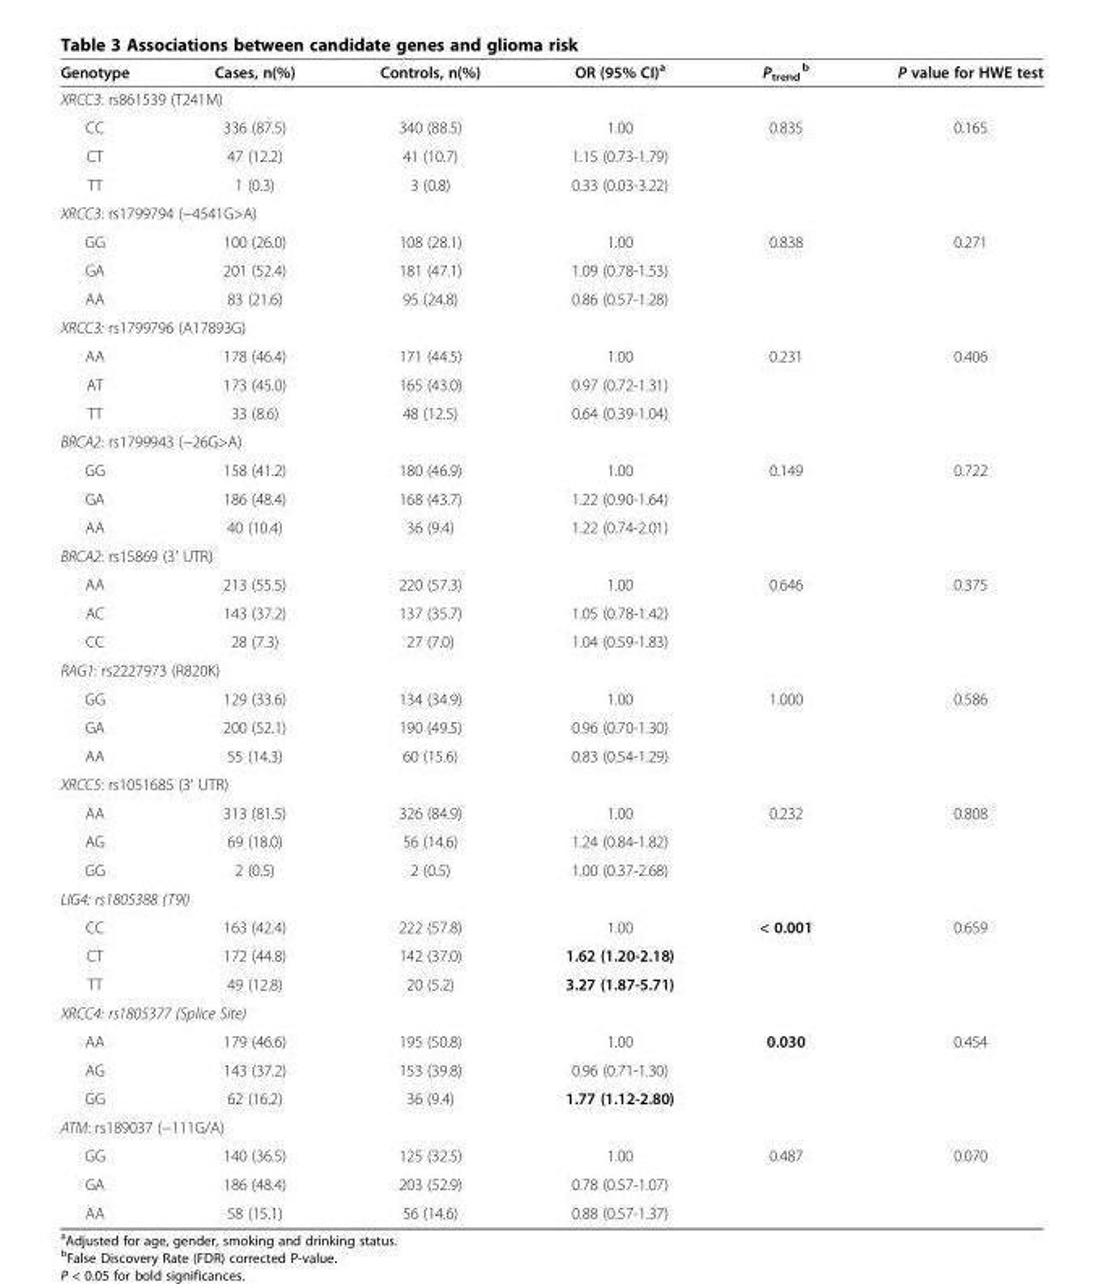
<table><thead><tr><td>Genotype</td><td>Cases, n(%)</td><td>Controls, n(%)</td><td>OR (95% CI)<sup>a</sup></td><td>P<sub>trend</sub> <sup>b</sup></td><td>P value for HWE test</td></tr></thead><tbody><tr><td colspan="6">XRCC3: rs861539 (T241M)</td></tr><tr><td>CC</td><td>336 (87.5)</td><td>340 (88.5)</td><td>1.00</td><td>0.835</td><td>0.165</td></tr><tr><td>CT</td><td>47 (12.2)</td><td>41 (10.7)</td><td>1.15 (0.73-1.79)</td><td></td><td></td></tr><tr><td>TT</td><td>1 (0.3)</td><td>3 (0.8)</td><td>0.33 (0.03-3.22)</td><td></td><td></td></tr><tr><td colspan="6">XRCC3: rs1799794 (−4541G&gt;A)</td></tr><tr><td>GG</td><td>100 (26.0)</td><td>108 (28.1)</td><td>1.00</td><td>0.838</td><td>0.271</td></tr><tr><td>GA</td><td>201 (52.4)</td><td>181 (47.1)</td><td>1.09 (0.78-1.53)</td><td></td><td></td></tr><tr><td>AA</td><td>83 (21.6)</td><td>95 (24.8)</td><td>0.86 (0.57-1.28)</td><td></td><td></td></tr><tr><td colspan="6">XRCC3: rs1799796 (A17893G)</td></tr><tr><td>AA</td><td>178 (46.4)</td><td>171 (44.5)</td><td>1.00</td><td>0.231</td><td>0.406</td></tr><tr><td>AT</td><td>173 (45.0)</td><td>165 (43.0)</td><td>0.97 (0.72-1.31)</td><td></td><td></td></tr><tr><td>TT</td><td>33 (8.6)</td><td>48 (12.5)</td><td>0.64 (0.39-1.04)</td><td></td><td></td></tr><tr><td colspan="6">BRCA2: rs1799943 (−26G&gt;A)</td></tr><tr><td>GG</td><td>158 (41.2)</td><td>180 (46.9)</td><td>1.00</td><td>0.149</td><td>0.722</td></tr><tr><td>GA</td><td>186 (48.4)</td><td>168 (43.7)</td><td>1.22 (0.90-1.64)</td><td></td><td></td></tr><tr><td>AA</td><td>40 (10.4)</td><td>36 (9.4)</td><td>1.22 (0.74-2.01)</td><td></td><td></td></tr><tr><td colspan="6">BRCA2: rs15869 (3&#x27; UTR)</td></tr><tr><td>AA</td><td>213 (55.5)</td><td>220 (57.3)</td><td>1.00</td><td>0.646</td><td>0.375</td></tr><tr><td>AC</td><td>143 (37.2)</td><td>137 (35.7)</td><td>1.05 (0.78-1.42)</td><td></td><td></td></tr><tr><td>CC</td><td>28 (7.3)</td><td>27 (7.0)</td><td>1.04 (0.59-1.83)</td><td></td><td></td></tr><tr><td colspan="6">RAG1: rs2227973 (R820K)</td></tr><tr><td>GG</td><td>129 (33.6)</td><td>134 (34.9)</td><td>1.00</td><td>1.000</td><td>0.586</td></tr><tr><td>GA</td><td>200 (52.1)</td><td>190 (49.5)</td><td>0.96 (0.70-1.30)</td><td></td><td></td></tr><tr><td>AA</td><td>55 (14.3)</td><td>60 (15.6)</td><td>0.83 (0.54-1.29)</td><td></td><td></td></tr><tr><td colspan="6">XRCC5: rs1051685 (3&#x27; UTR)</td></tr><tr><td>AA</td><td>313 (81.5)</td><td>326 (84.9)</td><td>1.00</td><td>0.232</td><td>0.808</td></tr><tr><td>AG</td><td>69 (18.0)</td><td>56 (14.6)</td><td>1.24 (0.84-1.82)</td><td></td><td></td></tr><tr><td>GG</td><td>2 (0.5)</td><td>2 (0.5)</td><td>1.00 (0.37-2.68)</td><td></td><td></td></tr><tr><td colspan="6">LIG4: rs1805388 (T9I)</td></tr><tr><td>CC</td><td>163 (42.4)</td><td>222 (57.8)</td><td>1.00</td><td>&lt; 0.001</td><td>0.659</td></tr><tr><td>CT</td><td>172 (44.8)</td><td>142 (37.0)</td><td>1.62 (1.20-2.18)</td><td></td><td></td></tr><tr><td>TT</td><td>49 (12.8)</td><td>20 (5.2)</td><td>3.27 (1.87-5.71)</td><td></td><td></td></tr><tr><td colspan="6">XRCC4: rs1805377 (Splice Site)</td></tr><tr><td>AA</td><td>179 (46.6)</td><td>195 (50.8)</td><td>1.00</td><td>0.030</td><td>0.454</td></tr><tr><td>AG</td><td>143 (37.2)</td><td>153 (39.8)</td><td>0.96 (0.71-1.30)</td><td></td><td></td></tr><tr><td>GG</td><td>62 (16.2)</td><td>36 (9.4)</td><td>1.77 (1.12-2.80)</td><td></td><td></td></tr><tr><td colspan="6">ATM: rs189037 (−111G/A)</td></tr><tr><td>GG</td><td>140 (36.5)</td><td>125 (32.5)</td><td>1.00</td><td>0.487</td><td>0.070</td></tr><tr><td>GA</td><td>186 (48.4)</td><td>203 (52.9)</td><td>0.78 (0.57-1.07)</td><td></td><td></td></tr><tr><td>AA</td><td>58 (15.1)</td><td>56 (14.6)</td><td>0.88 (0.57-1.37)</td><td></td><td></td></tr></tbody></table>